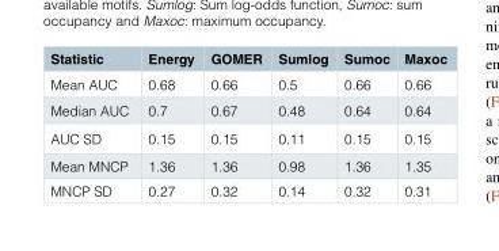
<table><thead><tr><td>Statistic</td><td>Energy</td><td>GOMER</td><td>Sumlog</td><td>Sumoc</td><td>Maxoc</td></tr></thead><tbody><tr><td>Mean AUC</td><td>0.68</td><td>0.66</td><td>0.5</td><td>0.66</td><td>0.66</td></tr><tr><td>Median AUC</td><td>0.7</td><td>0.67</td><td>0.48</td><td>0.64</td><td>0.64</td></tr><tr><td>AUC SD</td><td>0.15</td><td>0.15</td><td>0.11</td><td>0.15</td><td>0.15</td></tr><tr><td>Mean MNCP</td><td>1.36</td><td>1.36</td><td>0.98</td><td>1.36</td><td>1.35</td></tr><tr><td>MNCP SD</td><td>0.27</td><td>0.32</td><td>0.14</td><td>0.32</td><td>0.31</td></tr></tbody></table>